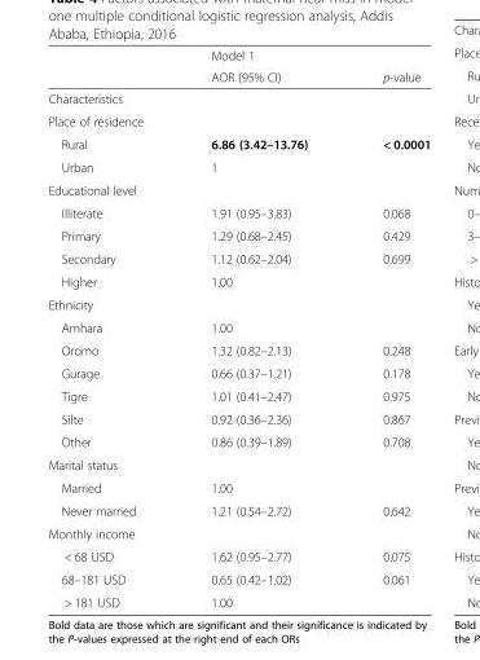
<table><thead><tr><td rowspan="2"></td><td rowspan="2">Model 1 AOR (95% CI)</td><td rowspan="2">p-value</td></tr><tr></tr></thead><tbody><tr><td colspan="3">Characteristics</td></tr><tr><td colspan="3">Place of residence</td></tr><tr><td>Rural</td><td>6.86 (3.42–13.76)</td><td>&lt; 0.0001</td></tr><tr><td>Urban</td><td>1</td><td></td></tr><tr><td colspan="3">Educational level</td></tr><tr><td>Illiterate</td><td>1.91 (0.95–3.83)</td><td>0.068</td></tr><tr><td>Primary</td><td>1.29 (0.68–2.45)</td><td>0.429</td></tr><tr><td>Secondary</td><td>1.12 (0.62–2.04)</td><td>0.699</td></tr><tr><td>Higher</td><td>1.00</td><td></td></tr><tr><td colspan="3">Ethnicity</td></tr><tr><td>Amhara</td><td>1.00</td><td></td></tr><tr><td>Oromo</td><td>1.32 (0.82–2.13)</td><td>0.248</td></tr><tr><td>Gurage</td><td>0.66 (0.37–1.21)</td><td>0.178</td></tr><tr><td>Tigre</td><td>1.01 (0.41–2.47)</td><td>0.975</td></tr><tr><td>Silte</td><td>0.92 (0.36–2.36)</td><td>0.867</td></tr><tr><td>Other</td><td>0.86 (0.39–1.89)</td><td>0.708</td></tr><tr><td colspan="3">Marital status</td></tr><tr><td>Married</td><td>1.00</td><td></td></tr><tr><td>Never married</td><td>1.21 (0.54–2.72)</td><td>0.642</td></tr><tr><td colspan="3">Monthly income</td></tr><tr><td>&lt; 68 USD</td><td>1.62 (0.95–2.77)</td><td>0.075</td></tr><tr><td>68–181 USD</td><td>0.65 (0.42–1.02)</td><td>0.061</td></tr><tr><td>&gt; 181 USD</td><td>1.00</td><td></td></tr></tbody></table>